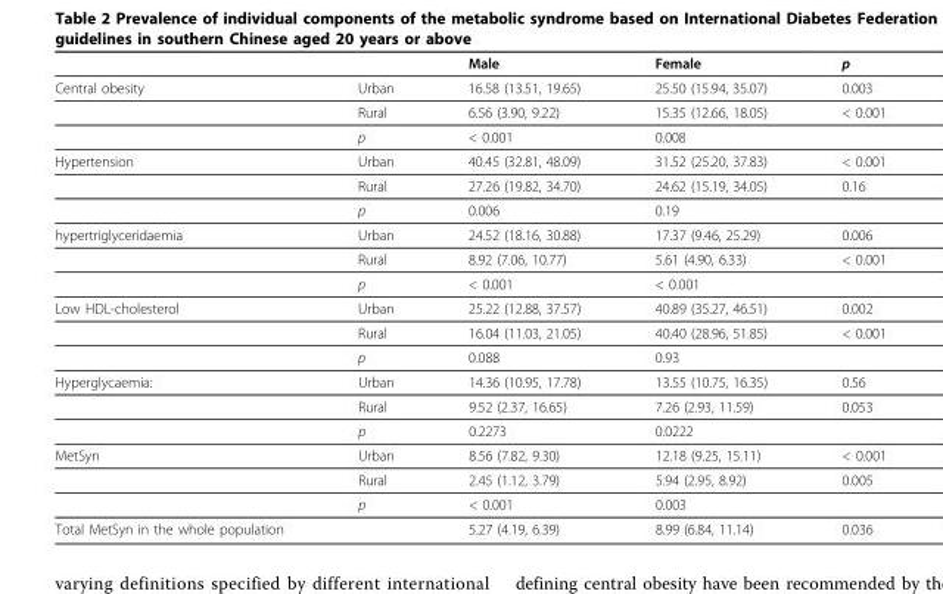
<table><thead><tr><td></td><td></td><td>Male</td><td>Female</td><td>p</td></tr></thead><tbody><tr><td rowspan="3">Central obesity</td><td>Urban</td><td>16.58 (13.51, 19.65)</td><td>25.50 (15.94, 35.07)</td><td>0.003</td></tr><tr><td>Rural</td><td>6.56 (3.90, 9.22)</td><td>15.35 (12.66, 18.05)</td><td>&lt; 0.001</td></tr><tr><td>p</td><td>&lt; 0.001</td><td>0.008</td><td></td></tr><tr><td rowspan="3">Hypertension</td><td>Urban</td><td>40.45 (32.81, 48.09)</td><td>31.52 (25.20, 37.83)</td><td>&lt; 0.001</td></tr><tr><td>Rural</td><td>27.26 (19.82, 34.70)</td><td>24.62 (15.19, 34.05)</td><td>0.16</td></tr><tr><td>p</td><td>0.006</td><td>0.19</td><td></td></tr><tr><td rowspan="3">hypertriglyceridaemia</td><td>Urban</td><td>24.52 (18.16, 30.88)</td><td>17.37 (9.46, 25.29)</td><td>0.006</td></tr><tr><td>Rural</td><td>8.92 (7.06, 10.77)</td><td>5.61 (4.90, 6.33)</td><td>&lt; 0.001</td></tr><tr><td>p</td><td>&lt; 0.001</td><td>&lt; 0.001</td><td></td></tr><tr><td rowspan="3">Low HDL-cholesterol</td><td>Urban</td><td>25.22 (12.88, 37.57)</td><td>40.89 (35.27, 46.51)</td><td>0.002</td></tr><tr><td>Rural</td><td>16.04 (11.03, 21.05)</td><td>40.40 (28.96, 51.85)</td><td>&lt; 0.001</td></tr><tr><td>p</td><td>0.088</td><td>0.93</td><td></td></tr><tr><td rowspan="3">Hyperglycaemia:</td><td>Urban</td><td>14.36 (10.95, 17.78)</td><td>13.55 (10.75, 16.35)</td><td>0.56</td></tr><tr><td>Rural</td><td>9.52 (2.37, 16.65)</td><td>7.26 (2.93, 11.59)</td><td>0.053</td></tr><tr><td>p</td><td>0.2273</td><td>0.0222</td><td></td></tr><tr><td rowspan="3">MetSyn</td><td>Urban</td><td>8.56 (7.82, 9.30)</td><td>12.18 (9.25, 15.11)</td><td>&lt; 0.001</td></tr><tr><td>Rural</td><td>2.45 (1.12, 3.79)</td><td>5.94 (2.95, 8.92)</td><td>0.005</td></tr><tr><td>p</td><td>&lt; 0.001</td><td>0.003</td><td></td></tr><tr><td>Total MetSyn in the whole population</td><td></td><td>5.27 (4.19, 6.39)</td><td>8.99 (6.84, 11.14)</td><td>0.036</td></tr></tbody></table>